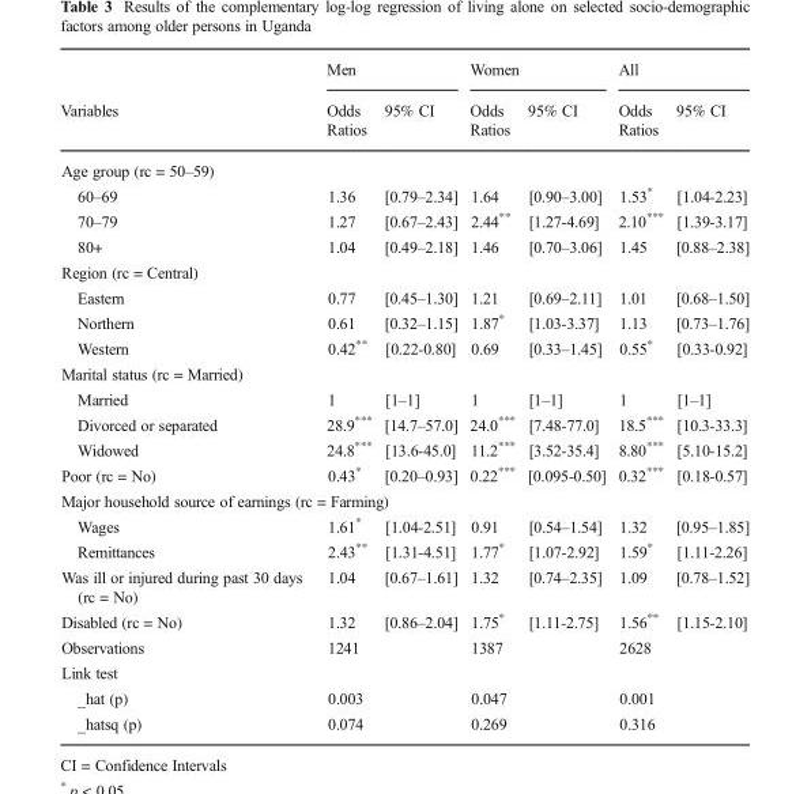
<table><thead><tr><td rowspan="2">Variables</td><td colspan="2">Men</td><td colspan="2">Women</td><td colspan="2">All</td></tr><tr><td>Odds Ratios</td><td>95% CI</td><td>Odds Ratios</td><td>95% CI</td><td>Odds Ratios</td><td>95% CI</td></tr></thead><tbody><tr><td colspan="7">Age group (rc = 50–59)</td></tr><tr><td>60–69</td><td>1.36</td><td>[0.79–2.34]</td><td>1.64</td><td>[0.90–3.00]</td><td>1.53*</td><td>[1.04-2.23]</td></tr><tr><td>70–79</td><td>1.27</td><td>[0.67–2.43]</td><td>2.44**</td><td>[1.27-4.69]</td><td>2.10***</td><td>[1.39-3.17]</td></tr><tr><td>80+</td><td>1.04</td><td>[0.49–2.18]</td><td>1.46</td><td>[0.70–3.06]</td><td>1.45</td><td>[0.88–2.38]</td></tr><tr><td colspan="7">Region (rc = Central)</td></tr><tr><td>Eastern</td><td>0.77</td><td>[0.45–1.30]</td><td>1.21</td><td>[0.69–2.11]</td><td>1.01</td><td>[0.68–1.50]</td></tr><tr><td>Northern</td><td>0.61</td><td>[0.32–1.15]</td><td>1.87*</td><td>[1.03-3.37]</td><td>1.13</td><td>[0.73–1.76]</td></tr><tr><td>Western</td><td>0.42**</td><td>[0.22-0.80]</td><td>0.69</td><td>[0.33–1.45]</td><td>0.55*</td><td>[0.33-0.92]</td></tr><tr><td colspan="7">Marital status (rc = Married)</td></tr><tr><td>Married</td><td>1</td><td>[1–1]</td><td>1</td><td>[1–1]</td><td>1</td><td>[1–1]</td></tr><tr><td>Divorced or separated</td><td>28.9***</td><td>[14.7–57.0]</td><td>24.0***</td><td>[7.48-77.0]</td><td>18.5***</td><td>[10.3-33.3]</td></tr><tr><td>Widowed</td><td>24.8***</td><td>[13.6-45.0]</td><td>11.2***</td><td>[3.52-35.4]</td><td>8.80***</td><td>[5.10-15.2]</td></tr><tr><td>Poor (rc = No)</td><td>0.43*</td><td>[0.20–0.93]</td><td>0.22***</td><td>[0.095-0.50]</td><td>0.32***</td><td>[0.18-0.57]</td></tr><tr><td colspan="7">Major household source of earnings (rc = Farming)</td></tr><tr><td>Wages</td><td>1.61*</td><td>[1.04-2.51]</td><td>0.91</td><td>[0.54–1.54]</td><td>1.32</td><td>[0.95–1.85]</td></tr><tr><td>Remittances</td><td>2.43**</td><td>[1.31-4.51]</td><td>1.77*</td><td>[1.07-2.92]</td><td>1.59*</td><td>[1.11-2.26]</td></tr><tr><td>Was ill or injured during past 30 days (rc = No)</td><td>1.04</td><td>[0.67–1.61]</td><td>1.32</td><td>[0.74–2.35]</td><td>1.09</td><td>[0.78–1.52]</td></tr><tr><td>Disabled (rc = No)</td><td>1.32</td><td>[0.86–2.04]</td><td>1.75*</td><td>[1.11-2.75]</td><td>1.56**</td><td>[1.15-2.10]</td></tr><tr><td>Observations</td><td>1241</td><td></td><td>1387</td><td></td><td>2628</td><td></td></tr><tr><td colspan="7">Link test</td></tr><tr><td>_hat (p)</td><td>0.003</td><td></td><td>0.047</td><td></td><td>0.001</td><td></td></tr><tr><td>_hatsq (p)</td><td>0.074</td><td></td><td>0.269</td><td></td><td>0.316</td><td></td></tr></tbody></table>